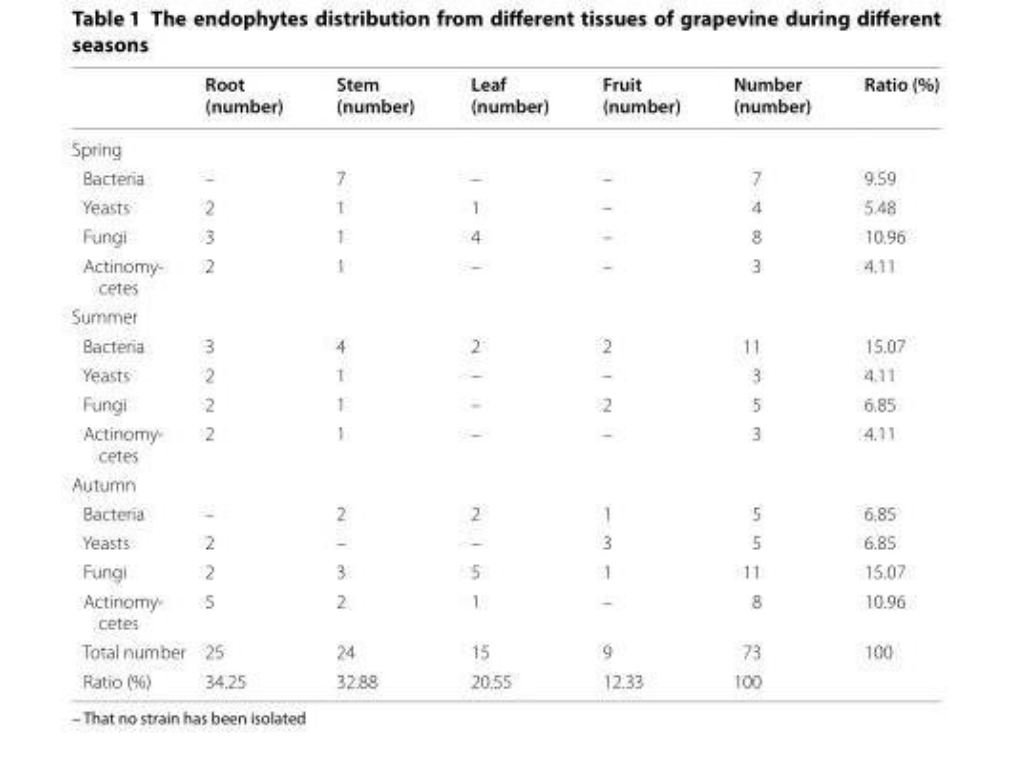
<table><thead><tr><td></td><td>Root (number)</td><td>Stem (number)</td><td>Leaf (number)</td><td>Fruit (number)</td><td>Number (number)</td><td>Ratio (%)</td></tr></thead><tbody><tr><td colspan="7">Spring</td></tr><tr><td>Bacteria</td><td>–</td><td>7</td><td>–</td><td>–</td><td>7</td><td>9.59</td></tr><tr><td>Yeasts</td><td>2</td><td>1</td><td>1</td><td>–</td><td>4</td><td>5.48</td></tr><tr><td>Fungi</td><td>3</td><td>1</td><td>4</td><td>–</td><td>8</td><td>10.96</td></tr><tr><td>Actinomy- cetes</td><td>2</td><td>1</td><td>–</td><td>–</td><td>3</td><td>4.11</td></tr><tr><td colspan="7">Summer</td></tr><tr><td>Bacteria</td><td>3</td><td>4</td><td>2</td><td>2</td><td>11</td><td>15.07</td></tr><tr><td>Yeasts</td><td>2</td><td>1</td><td>–</td><td>–</td><td>3</td><td>4.11</td></tr><tr><td>Fungi</td><td>2</td><td>1</td><td>–</td><td>2</td><td>5</td><td>6.85</td></tr><tr><td>Actinomy- cetes</td><td>2</td><td>1</td><td>–</td><td>–</td><td>3</td><td>4.11</td></tr><tr><td colspan="7">Autumn</td></tr><tr><td>Bacteria</td><td>–</td><td>2</td><td>2</td><td>1</td><td>5</td><td>6.85</td></tr><tr><td>Yeasts</td><td>2</td><td>–</td><td>–</td><td>3</td><td>5</td><td>6.85</td></tr><tr><td>Fungi</td><td>2</td><td>3</td><td>5</td><td>1</td><td>11</td><td>15.07</td></tr><tr><td>Actinomy- cetes</td><td>5</td><td>2</td><td>1</td><td>–</td><td>8</td><td>10.96</td></tr><tr><td>Total number</td><td>25</td><td>24</td><td>15</td><td>9</td><td>73</td><td>100</td></tr><tr><td>Ratio (%)</td><td>34.25</td><td>32.88</td><td>20.55</td><td>12.33</td><td>100</td><td></td></tr></tbody></table>